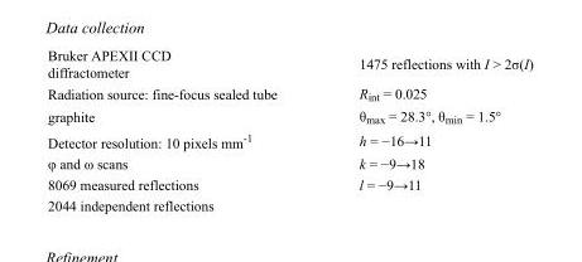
<table><tbody><tr><td>Bruker APEXII CCD diffractometer</td><td>1475 reflections with I &gt; 2σ(I)</td></tr><tr><td>Radiation source: fine-focus sealed tube</td><td>R<sub>int</sub> = 0.025</td></tr><tr><td>graphite</td><td>θ<sub>max</sub> = 28.3°, θ<sub>min</sub> = 1.5°</td></tr><tr><td>Detector resolution: 10 pixels mm<sup>-1</sup></td><td>h = −16→11</td></tr><tr><td>φ and ω scans</td><td>k = −9→18</td></tr><tr><td>8069 measured reflections</td><td>l = −9→11</td></tr><tr><td>2044 independent reflections</td><td></td></tr></tbody></table>